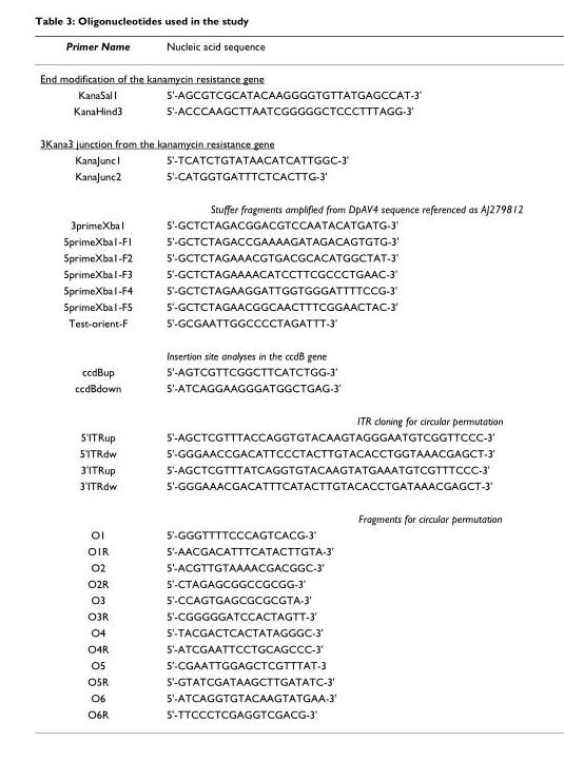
<table><thead><tr><td>Primer Name</td><td>Nucleic acid sequence</td></tr></thead><tbody><tr><td colspan="2">End modification of the kanamycin resistance gene</td></tr><tr><td>KanaSal1</td><td>5&#x27;-AGCGTCGCATACAAGGGGTGTTATGAGCCAT-3&#x27;</td></tr><tr><td>KanaHind3</td><td>5&#x27;-ACCCAAGCTTAATCGGGGGCTCCCTTTAGG-3&#x27;</td></tr><tr><td colspan="2">3Kana3 junction from the kanamycin resistance gene</td></tr><tr><td>KanaJunc1</td><td>5&#x27;-TCATCTGTATAACATCATTGGC-3&#x27;</td></tr><tr><td>KanaJunc2</td><td>5&#x27;-CATGGTGATTTCTCACTTG-3&#x27;</td></tr><tr><td colspan="2">Stuffer fragments amplified from DpAV4 sequence referenced as AJ279812</td></tr><tr><td>3primeXba1</td><td>5&#x27;-GCTCTAGACGGACGTCCAATACATGATG-3&#x27;</td></tr><tr><td>5primeXba1-F1</td><td>5&#x27;-GCTCTAGACCGAAAAGATAGACAGTGTG-3&#x27;</td></tr><tr><td>5primeXba1-F2</td><td>5&#x27;-GCTCTAGAAACGTGACGCACATGGCTAT-3&#x27;</td></tr><tr><td>5primeXba1-F3</td><td>5&#x27;-GCTCTAGAAAACATCCTTCGCCCTGAAC-3&#x27;</td></tr><tr><td>5primeXba1-F4</td><td>5&#x27;-GCTCTAGAAGGATTGGTGGGATTTTCCG-3&#x27;</td></tr><tr><td>5primeXba1-F5</td><td>5&#x27;-GCTCTAGAACGGCAACTTTCGGAACTAC-3&#x27;</td></tr><tr><td rowspan="2">Test-orient-F</td><td>5&#x27;-GCGAATTGGCCCCTAGATTT-3&#x27;</td></tr><tr><td>Insertion site analyses in the ccdB gene</td></tr><tr><td>ccdBup</td><td>5&#x27;-AGTCGTTCGGCTTCATCTGG-3&#x27;</td></tr><tr><td rowspan="2">ccdBdown</td><td>5&#x27;-ATCAGGAAGGGATGGCTGAG-3&#x27;</td></tr><tr><td>ITR cloning for circular permutation</td></tr><tr><td>5&#x27;ITRup</td><td>5&#x27;-AGCTCGTTTACCAGGTGTACAAGTAGGGAATGTCGGTTCCC-3&#x27;</td></tr><tr><td>5&#x27;ITRdw</td><td>5&#x27;-GGGAACCGACATTCCCTACTTGTACACCTGGTAAACGAGCT-3&#x27;</td></tr><tr><td>3&#x27;ITRup</td><td>5&#x27;-AGCTCGTTTATCAGGTGTACAAGTATGAAATGTCGTTTCCC-3&#x27;</td></tr><tr><td rowspan="2">3&#x27;ITRdw</td><td>5&#x27;-GGGAAACGACATTTCATACTTGTACACCTGATAAACGAGCT-3&#x27;</td></tr><tr><td>Fragments for circular permutation</td></tr><tr><td>O1</td><td>5&#x27;-GGGTTTTCCCAGTCACG-3&#x27;</td></tr><tr><td>O1R</td><td>5&#x27;-AACGACATTTCATACTTGTA-3&#x27;</td></tr><tr><td>O2</td><td>5&#x27;-ACGTTGTAAAACGACGGC-3&#x27;</td></tr><tr><td>O2R</td><td>5&#x27;-CTAGAGCGGCCGCGG-3&#x27;</td></tr><tr><td>O3</td><td>5&#x27;-CCAGTGAGCGCGCGTA-3&#x27;</td></tr><tr><td>O3R</td><td>5&#x27;-CGGGGGATCCACTAGTT-3&#x27;</td></tr><tr><td>O4</td><td>5&#x27;-TACGACTCACTATAGGGC-3&#x27;</td></tr><tr><td>O4R</td><td>5&#x27;-ATCGAATTCCTGCAGCCC-3&#x27;</td></tr><tr><td>O5</td><td>5&#x27;-CGAATTGGAGCTCGTTTAT-3</td></tr><tr><td>O5R</td><td>5&#x27;-GTATCGATAAGCTTGATATC-3&#x27;</td></tr><tr><td>O6</td><td>5&#x27;-ATCAGGTGTACAAGTATGAA-3&#x27;</td></tr><tr><td>O6R</td><td>5&#x27;-TTCCCTCGAGGTCGACG-3&#x27;</td></tr></tbody></table>